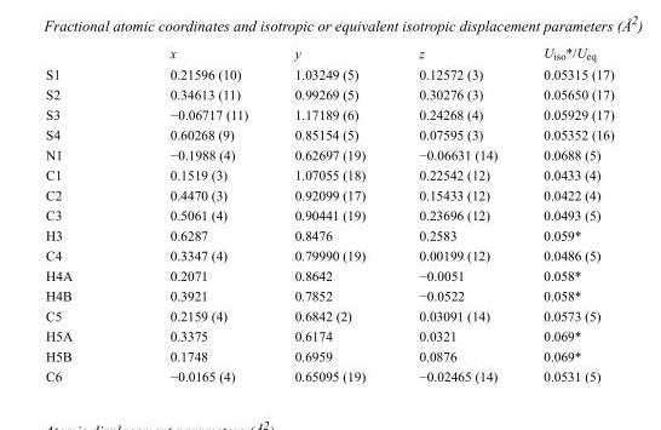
<table><thead><tr><td></td><td>x</td><td>y</td><td>z</td><td>U<sub>iso</sub>*/U<sub>eq</sub></td></tr></thead><tbody><tr><td>S1</td><td>0.21596 (10)</td><td>1.03249 (5)</td><td>0.12572 (3)</td><td>0.05315 (17)</td></tr><tr><td>S2</td><td>0.34613 (11)</td><td>0.99269 (5)</td><td>0.30276 (3)</td><td>0.05650 (17)</td></tr><tr><td>S3</td><td>−0.06717 (11)</td><td>1.17189 (6)</td><td>0.24268 (4)</td><td>0.05929 (17)</td></tr><tr><td>S4</td><td>0.60268 (9)</td><td>0.85154 (5)</td><td>0.07595 (3)</td><td>0.05352 (16)</td></tr><tr><td>N1</td><td>−0.1988 (4)</td><td>0.62697 (19)</td><td>−0.06631 (14)</td><td>0.0688 (5)</td></tr><tr><td>C1</td><td>0.1519 (3)</td><td>1.07055 (18)</td><td>0.22542 (12)</td><td>0.0433 (4)</td></tr><tr><td>C2</td><td>0.4470 (3)</td><td>0.92099 (17)</td><td>0.15433 (12)</td><td>0.0422 (4)</td></tr><tr><td>C3</td><td>0.5061 (4)</td><td>0.90441 (19)</td><td>0.23696 (12)</td><td>0.0493 (5)</td></tr><tr><td>H3</td><td>0.6287</td><td>0.8476</td><td>0.2583</td><td>0.059*</td></tr><tr><td>C4</td><td>0.3347 (4)</td><td>0.79990 (19)</td><td>0.00199 (12)</td><td>0.0486 (5)</td></tr><tr><td>H4A</td><td>0.2071</td><td>0.8642</td><td>−0.0051</td><td>0.058*</td></tr><tr><td>H4B</td><td>0.3921</td><td>0.7852</td><td>−0.0522</td><td>0.058*</td></tr><tr><td>C5</td><td>0.2159 (4)</td><td>0.6842 (2)</td><td>0.03091 (14)</td><td>0.0573 (5)</td></tr><tr><td>H5A</td><td>0.3375</td><td>0.6174</td><td>0.0321</td><td>0.069*</td></tr><tr><td>H5B</td><td>0.1748</td><td>0.6959</td><td>0.0876</td><td>0.069*</td></tr><tr><td>C6</td><td>−0.0165 (4)</td><td>0.65095 (19)</td><td>−0.02465 (14)</td><td>0.0531 (5)</td></tr></tbody></table>